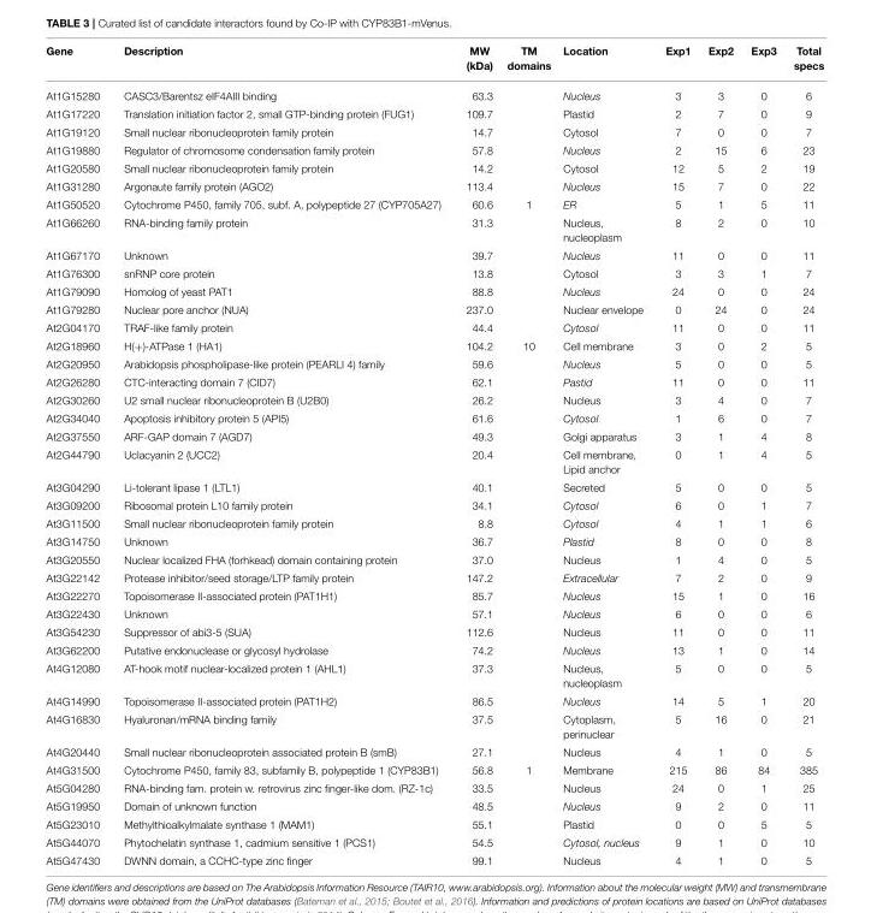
<table><thead><tr><td>Gene</td><td>Description</td><td>MW (kDa)</td><td>TM domains</td><td>Location</td><td>Exp1</td><td>Exp2</td><td>Exp3</td><td>Total specs</td></tr></thead><tbody><tr><td>At1G15280</td><td>CASC3/Barentsz eIF4AIII binding</td><td>63.3</td><td></td><td>Nucleus</td><td>3</td><td>3</td><td>0</td><td>6</td></tr><tr><td>At1G17220</td><td>Translation initiation factor 2, small GTP-binding protein (FUG1)</td><td>109.7</td><td></td><td>Plastid</td><td>2</td><td>7</td><td>0</td><td>9</td></tr><tr><td>At1G19120</td><td>Small nuclear ribonucleoprotein family protein</td><td>14.7</td><td></td><td>Cytosol</td><td>7</td><td>0</td><td>0</td><td>7</td></tr><tr><td>At1G19880</td><td>Regulator of chromosome condensation family protein</td><td>57.8</td><td></td><td>Nucleus</td><td>2</td><td>15</td><td>6</td><td>23</td></tr><tr><td>At1G20580</td><td>Small nuclear ribonucleoprotein family protein</td><td>14.2</td><td></td><td>Cytosol</td><td>12</td><td>5</td><td>2</td><td>19</td></tr><tr><td>At1G31280</td><td>Argonaute family protein (AGO2)</td><td>113.4</td><td></td><td>Nucleus</td><td>15</td><td>7</td><td>0</td><td>22</td></tr><tr><td>At1G50520</td><td>Cytochrome P450, family 705, subf. A, polypeptide 27 (CYP705A27)</td><td>60.6</td><td>1</td><td>ER</td><td>5</td><td>1</td><td>5</td><td>11</td></tr><tr><td>At1G66260</td><td>RNA-binding family protein</td><td>31.3</td><td></td><td>Nucleus, nucleoplasm</td><td>8</td><td>2</td><td>0</td><td>10</td></tr><tr><td>At1G67170</td><td>Unknown</td><td>39.7</td><td></td><td>Nucleus</td><td>11</td><td>0</td><td>0</td><td>11</td></tr><tr><td>At1G76300</td><td>snRNP core protein</td><td>13.8</td><td></td><td>Cytosol</td><td>3</td><td>3</td><td>1</td><td>7</td></tr><tr><td>At1G79090</td><td>Homolog of yeast PAT1</td><td>88.8</td><td></td><td>Nucleus</td><td>24</td><td>0</td><td>0</td><td>24</td></tr><tr><td>At1G79280</td><td>Nuclear pore anchor (NUA)</td><td>237.0</td><td></td><td>Nuclear envelope</td><td>0</td><td>24</td><td>0</td><td>24</td></tr><tr><td>At2G04170</td><td>TRAF-like family protein</td><td>44.4</td><td></td><td>Cytosol</td><td>11</td><td>0</td><td>0</td><td>11</td></tr><tr><td>At2G18960</td><td>H(+)-ATPase 1 (HA1)</td><td>104.2</td><td>10</td><td>Cell membrane</td><td>3</td><td>0</td><td>2</td><td>5</td></tr><tr><td>At2G20950</td><td>Arabidopsis phospholipase-like protein (PEARLI 4) family</td><td>59.6</td><td></td><td>Nucleus</td><td>5</td><td>0</td><td>0</td><td>5</td></tr><tr><td>At2G26280</td><td>CTC-interacting domain 7 (CID7)</td><td>62.1</td><td></td><td>Pastid</td><td>11</td><td>0</td><td>0</td><td>11</td></tr><tr><td>At2G30260</td><td>U2 small nuclear ribonucleoprotein B (U2B0)</td><td>26.2</td><td></td><td>Nucleus</td><td>3</td><td>4</td><td>0</td><td>7</td></tr><tr><td>At2G34040</td><td>Apoptosis inhibitory protein 5 (API5)</td><td>61.6</td><td></td><td>Cytosol</td><td>1</td><td>6</td><td>0</td><td>7</td></tr><tr><td>At2G37550</td><td>ARF-GAP domain 7 (AGD7)</td><td>49.3</td><td></td><td>Golgi apparatus</td><td>3</td><td>1</td><td>4</td><td>8</td></tr><tr><td>At2G44790</td><td>Uclacyanin 2 (UCC2)</td><td>20.4</td><td></td><td>Cell membrane, Lipid anchor</td><td>0</td><td>1</td><td>4</td><td>5</td></tr><tr><td>At3G04290</td><td>Li-tolerant lipase 1 (LTL1)</td><td>40.1</td><td></td><td>Secreted</td><td>5</td><td>0</td><td>0</td><td>5</td></tr><tr><td>At3G09200</td><td>Ribosomal protein L10 family protein</td><td>34.1</td><td></td><td>Cytosol</td><td>6</td><td>0</td><td>1</td><td>7</td></tr><tr><td>At3G11500</td><td>Small nuclear ribonucleoprotein family protein</td><td>8.8</td><td></td><td>Cytosol</td><td>4</td><td>1</td><td>1</td><td>6</td></tr><tr><td>At3G14750</td><td>Unknown</td><td>36.7</td><td></td><td>Plastid</td><td>8</td><td>0</td><td>0</td><td>8</td></tr><tr><td>At3G20550</td><td>Nuclear localized FHA (forhkead) domain containing protein</td><td>37.0</td><td></td><td>Nucleus</td><td>1</td><td>4</td><td>0</td><td>5</td></tr><tr><td>At3G22142</td><td>Protease inhibitor/seed storage/LTP family protein</td><td>147.2</td><td></td><td>Extracellular</td><td>7</td><td>2</td><td>0</td><td>9</td></tr><tr><td>At3G22270</td><td>Topoisomerase II-associated protein (PAT1H1)</td><td>85.7</td><td></td><td>Nucleus</td><td>15</td><td>1</td><td>0</td><td>16</td></tr><tr><td>At3G22430</td><td>Unknown</td><td>57.1</td><td></td><td>Nucleus</td><td>6</td><td>0</td><td>0</td><td>6</td></tr><tr><td>At3G54230</td><td>Suppressor of abi3-5 (SUA)</td><td>112.6</td><td></td><td>Nucleus</td><td>11</td><td>0</td><td>0</td><td>11</td></tr><tr><td>At3G62200</td><td>Putative endonuclease or glycosyl hydrolase</td><td>74.2</td><td></td><td>Nucleus</td><td>13</td><td>1</td><td>0</td><td>14</td></tr><tr><td>At4G12080</td><td>AT-hook motif nuclear-localized protein 1 (AHL1)</td><td>37.3</td><td></td><td>Nucleus, nucleoplasm</td><td>5</td><td>0</td><td>0</td><td>5</td></tr><tr><td>At4G14990</td><td>Topoisomerase II-associated protein (PAT1H2)</td><td>86.5</td><td></td><td>Nucleus</td><td>14</td><td>5</td><td>1</td><td>20</td></tr><tr><td>At4G16830</td><td>Hyaluronan/mRNA binding family</td><td>37.5</td><td></td><td>Cytoplasm, perinuclear</td><td>5</td><td>16</td><td>0</td><td>21</td></tr><tr><td>At4G20440</td><td>Small nuclear ribonucleoprotein associated protein B (smB)</td><td>27.1</td><td></td><td>Nucleus</td><td>4</td><td>1</td><td>0</td><td>5</td></tr><tr><td>At4G31500</td><td>Cytochrome P450, family 83, subfamily B, polypeptide 1 (CYP83B1)</td><td>56.8</td><td>1</td><td>Membrane</td><td>215</td><td>86</td><td>84</td><td>385</td></tr><tr><td>At5G04280</td><td>RNA-binding fam. protein w. retrovirus zinc finger-like dom. (RZ-1c)</td><td>33.5</td><td></td><td>Nucleus</td><td>24</td><td>0</td><td>1</td><td>25</td></tr><tr><td>At5G19950</td><td>Domain of unknown function</td><td>48.5</td><td></td><td>Nucleus</td><td>9</td><td>2</td><td>0</td><td>11</td></tr><tr><td>At5G23010</td><td>Methylthioalkylmalate synthase 1 (MAM1)</td><td>55.1</td><td></td><td>Plastid</td><td>0</td><td>0</td><td>5</td><td>5</td></tr><tr><td>At5G44070</td><td>Phytochelatin synthase 1, cadmium sensitive 1 (PCS1)</td><td>54.5</td><td></td><td>Cytosol, nucleus</td><td>9</td><td>1</td><td>0</td><td>10</td></tr><tr><td>At5G47430</td><td>DWNN domain, a CCHC-type zinc finger</td><td>99.1</td><td></td><td>Nucleus</td><td>4</td><td>1</td><td>0</td><td>5</td></tr></tbody></table>